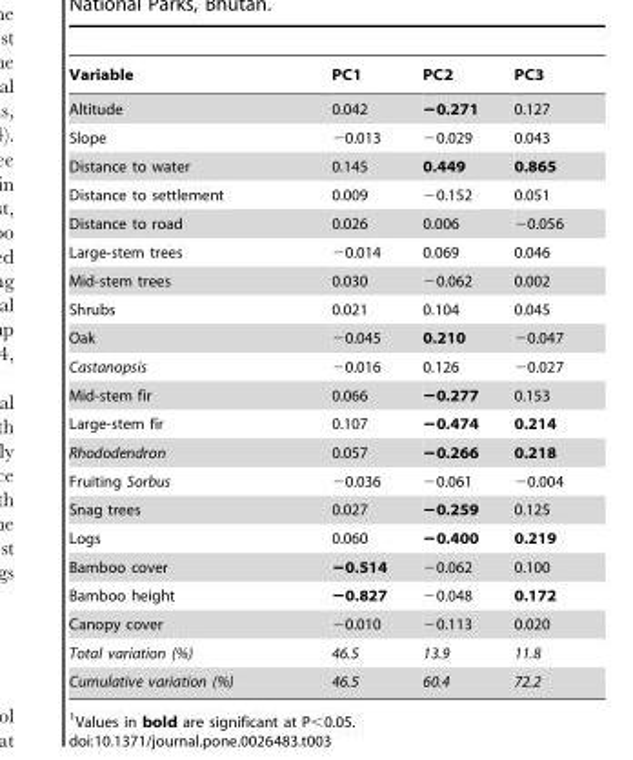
<table><thead><tr><td>Variable</td><td>PC1</td><td>PC2</td><td>PC3</td></tr></thead><tbody><tr><td>Altitude</td><td>0.042</td><td>−0.271</td><td>0.127</td></tr><tr><td>Slope</td><td>−0.013</td><td>−0.029</td><td>0.043</td></tr><tr><td>Distance to water</td><td>0.145</td><td>0.449</td><td>0.865</td></tr><tr><td>Distance to settlement</td><td>0.009</td><td>−0.152</td><td>0.051</td></tr><tr><td>Distance to road</td><td>0.026</td><td>0.006</td><td>−0.056</td></tr><tr><td>Large-stem trees</td><td>−0.014</td><td>0.069</td><td>0.046</td></tr><tr><td>Mid-stem trees</td><td>0.030</td><td>−0.062</td><td>0.002</td></tr><tr><td>Shrubs</td><td>0.021</td><td>0.104</td><td>0.045</td></tr><tr><td>Oak</td><td>−0.045</td><td>0.210</td><td>−0.047</td></tr><tr><td>Castanopsis</td><td>−0.016</td><td>0.126</td><td>−0.027</td></tr><tr><td>Mid-stem fir</td><td>0.066</td><td>−0.277</td><td>0.153</td></tr><tr><td>Large-stem fir</td><td>0.107</td><td>−0.474</td><td>0.214</td></tr><tr><td>Rhododendron</td><td>0.057</td><td>−0.266</td><td>0.218</td></tr><tr><td>Fruiting Sorbus</td><td>−0.036</td><td>−0.061</td><td>−0.004</td></tr><tr><td>Snag trees</td><td>0.027</td><td>−0.259</td><td>0.125</td></tr><tr><td>Logs</td><td>0.060</td><td>−0.400</td><td>0.219</td></tr><tr><td>Bamboo cover</td><td>−0.514</td><td>−0.062</td><td>0.100</td></tr><tr><td>Bamboo height</td><td>−0.827</td><td>−0.048</td><td>0.172</td></tr><tr><td>Canopy cover</td><td>−0.010</td><td>−0.113</td><td>0.020</td></tr><tr><td>Total variation (%)</td><td>46.5</td><td>13.9</td><td>11.8</td></tr><tr><td>Cumulative variation (%)</td><td>46.5</td><td>60.4</td><td>72.2</td></tr></tbody></table>